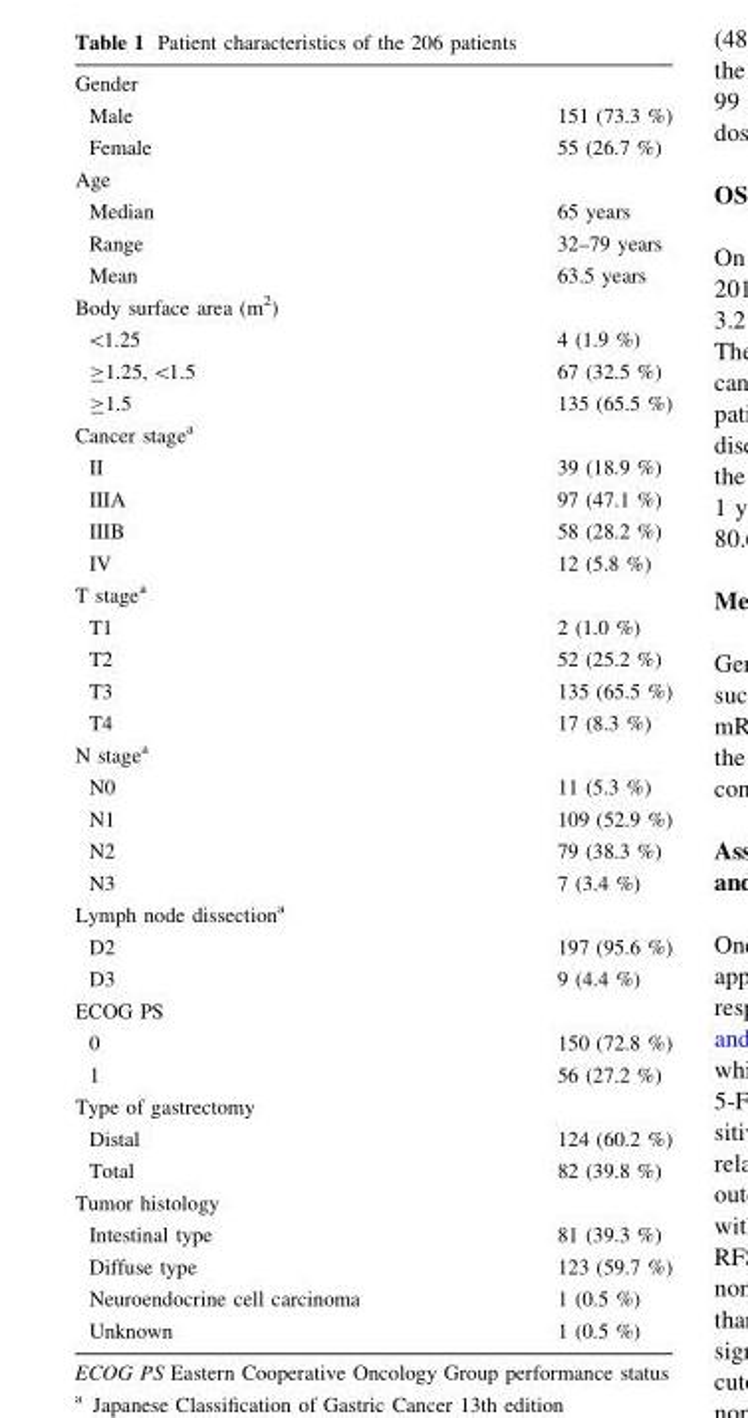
<table><tbody><tr><td colspan="2">Gender</td></tr><tr><td>Male</td><td>151 (73.3 %)</td></tr><tr><td>Female</td><td>55 (26.7 %)</td></tr><tr><td colspan="2">Age</td></tr><tr><td>Median</td><td>65 years</td></tr><tr><td>Range</td><td>32–79 years</td></tr><tr><td>Mean</td><td>63.5 years</td></tr><tr><td colspan="2">Body surface area (m<sup>2</sup>)</td></tr><tr><td>&lt;1.25</td><td>4 (1.9 %)</td></tr><tr><td>≥1.25, &lt;1.5</td><td>67 (32.5 %)</td></tr><tr><td>≥1.5</td><td>135 (65.5 %)</td></tr><tr><td colspan="2">Cancer stage<sup>a</sup></td></tr><tr><td>II</td><td>39 (18.9 %)</td></tr><tr><td>IIIA</td><td>97 (47.1 %)</td></tr><tr><td>IIIB</td><td>58 (28.2 %)</td></tr><tr><td>IV</td><td>12 (5.8 %)</td></tr><tr><td colspan="2">T stage<sup>a</sup></td></tr><tr><td>T1</td><td>2 (1.0 %)</td></tr><tr><td>T2</td><td>52 (25.2 %)</td></tr><tr><td>T3</td><td>135 (65.5 %)</td></tr><tr><td>T4</td><td>17 (8.3 %)</td></tr><tr><td colspan="2">N stage<sup>a</sup></td></tr><tr><td>N0</td><td>11 (5.3 %)</td></tr><tr><td>N1</td><td>109 (52.9 %)</td></tr><tr><td>N2</td><td>79 (38.3 %)</td></tr><tr><td>N3</td><td>7 (3.4 %)</td></tr><tr><td colspan="2">Lymph node dissection<sup>a</sup></td></tr><tr><td>D2</td><td>197 (95.6 %)</td></tr><tr><td>D3</td><td>9 (4.4 %)</td></tr><tr><td colspan="2">ECOG PS</td></tr><tr><td>0</td><td>150 (72.8 %)</td></tr><tr><td>1</td><td>56 (27.2 %)</td></tr><tr><td colspan="2">Type of gastrectomy</td></tr><tr><td>Distal</td><td>124 (60.2 %)</td></tr><tr><td>Total</td><td>82 (39.8 %)</td></tr><tr><td colspan="2">Tumor histology</td></tr><tr><td>Intestinal type</td><td>81 (39.3 %)</td></tr><tr><td>Diffuse type</td><td>123 (59.7 %)</td></tr><tr><td>Neuroendocrine cell carcinoma</td><td>1 (0.5 %)</td></tr><tr><td>Unknown</td><td>1 (0.5 %)</td></tr></tbody></table>